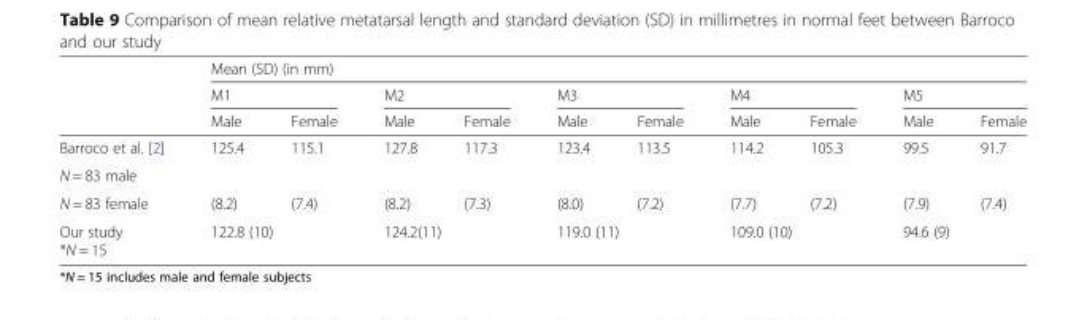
<table><thead><tr><td rowspan="3"></td><td colspan="10">Mean (SD) (in mm)</td></tr><tr><td colspan="2">M1</td><td colspan="2">M2</td><td colspan="2">M3</td><td colspan="2">M4</td><td colspan="2">M5</td></tr><tr><td>Male</td><td>Female</td><td>Male</td><td>Female</td><td>Male</td><td>Female</td><td>Male</td><td>Female</td><td>Male</td><td>Female</td></tr></thead><tbody><tr><td>Barroco et al. [2]</td><td>125.4</td><td>115.1</td><td>127.8</td><td>117.3</td><td>123.4</td><td>113.5</td><td>114.2</td><td>105.3</td><td>99.5</td><td>91.7</td></tr><tr><td colspan="11">N = 83 male</td></tr><tr><td>N = 83 female</td><td>(8.2)</td><td>(7.4)</td><td>(8.2)</td><td>(7.3)</td><td>(8.0)</td><td>(7.2)</td><td>(7.7)</td><td>(7.2)</td><td>(7.9)</td><td>(7.4)</td></tr><tr><td>Our study *N = 15</td><td colspan="2">122.8 (10)</td><td colspan="2">124.2(11)</td><td colspan="2">119.0 (11)</td><td colspan="2">109.0 (10)</td><td colspan="2">94.6 (9)</td></tr></tbody></table>